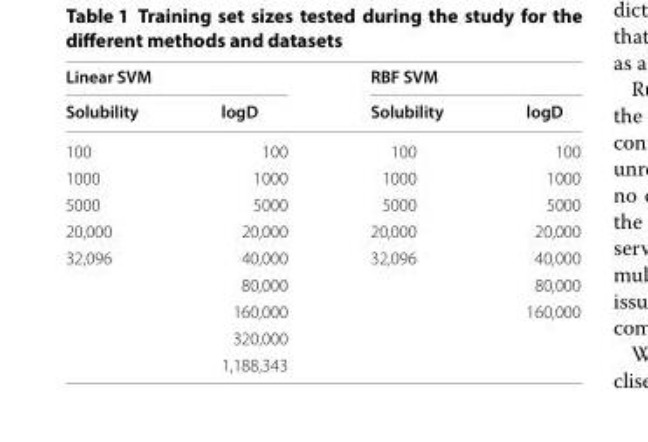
<table><thead><tr><td colspan="2">Linear SVM</td><td colspan="2">RBF SVM</td></tr><tr><td>Solubility</td><td>logD</td><td>Solubility</td><td>logD</td></tr></thead><tbody><tr><td>100</td><td>100</td><td>100</td><td>100</td></tr><tr><td>1000</td><td>1000</td><td>1000</td><td>1000</td></tr><tr><td>5000</td><td>5000</td><td>5000</td><td>5000</td></tr><tr><td>20,000</td><td>20,000</td><td>20,000</td><td>20,000</td></tr><tr><td rowspan="5">32,096</td><td>40,000</td><td>32,096</td><td>40,000</td></tr><tr><td>80,000</td><td></td><td>80,000</td></tr><tr><td>160,000</td><td></td><td>160,000</td></tr><tr><td>320,000</td><td></td><td></td></tr><tr><td>1,188,343</td><td></td><td></td></tr></tbody></table>